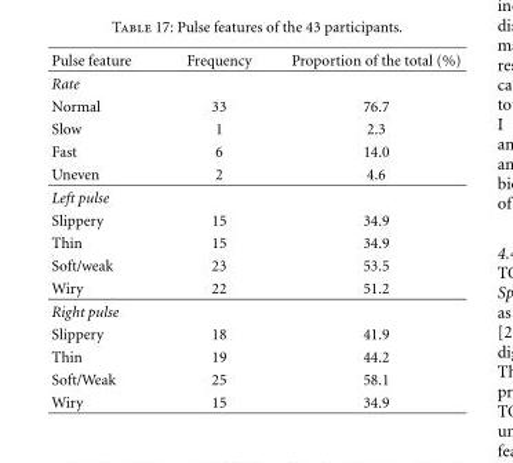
<table><thead><tr><td>Pulse feature</td><td>Frequency</td><td>Proportion of the total (%)</td></tr></thead><tbody><tr><td colspan="3">Rate</td></tr><tr><td>Normal</td><td>33</td><td>76.7</td></tr><tr><td>Slow</td><td>1</td><td>2.3</td></tr><tr><td>Fast</td><td>6</td><td>14.0</td></tr><tr><td>Uneven</td><td>2</td><td>4.6</td></tr><tr><td colspan="3">Left pulse</td></tr><tr><td>Slippery</td><td>15</td><td>34.9</td></tr><tr><td>Thin</td><td>15</td><td>34.9</td></tr><tr><td>Soft/weak</td><td>23</td><td>53.5</td></tr><tr><td>Wiry</td><td>22</td><td>51.2</td></tr><tr><td colspan="3">Right pulse</td></tr><tr><td>Slippery</td><td>18</td><td>41.9</td></tr><tr><td>Thin</td><td>19</td><td>44.2</td></tr><tr><td>Soft/Weak</td><td>25</td><td>58.1</td></tr><tr><td>Wiry</td><td>15</td><td>34.9</td></tr></tbody></table>